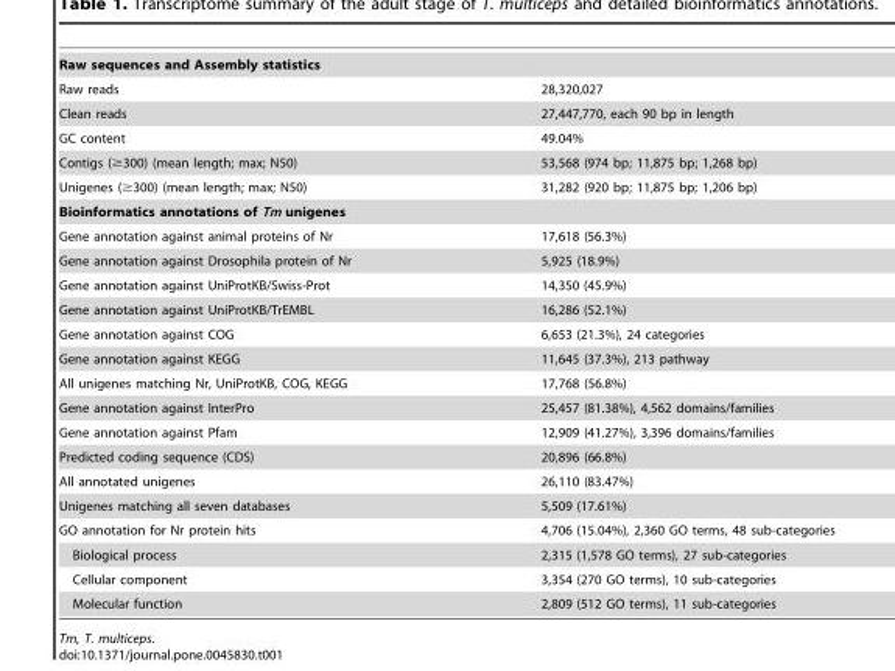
<table><tbody><tr><td colspan="2">Raw sequences and Assembly statistics</td></tr><tr><td>Raw reads</td><td>28,320,027</td></tr><tr><td>Clean reads</td><td>27,447,770, each 90 bp in length</td></tr><tr><td>GC content</td><td>49.04%</td></tr><tr><td>Contigs (≥300) (mean length; max; N50)</td><td>53,568 (974 bp; 11,875 bp; 1,268 bp)</td></tr><tr><td>Unigenes (≥300) (mean length; max; N50)</td><td>31,282 (920 bp; 11,875 bp; 1,206 bp)</td></tr><tr><td colspan="2">Bioinformatics annotations of Tm unigenes</td></tr><tr><td>Gene annotation against animal proteins of Nr</td><td>17,618 (56.3%)</td></tr><tr><td>Gene annotation against Drosophila protein of Nr</td><td>5,925 (18.9%)</td></tr><tr><td>Gene annotation against UniProtKB/Swiss-Prot</td><td>14,350 (45.9%)</td></tr><tr><td>Gene annotation against UniProtKB/TrEMBL</td><td>16,286 (52.1%)</td></tr><tr><td>Gene annotation against COG</td><td>6,653 (21.3%), 24 categories</td></tr><tr><td>Gene annotation against KEGG</td><td>11,645 (37.3%), 213 pathway</td></tr><tr><td>All unigenes matching Nr, UniProtKB, COG, KEGG</td><td>17,768 (56.8%)</td></tr><tr><td>Gene annotation against InterPro</td><td>25,457 (81.38%), 4,562 domains/families</td></tr><tr><td>Gene annotation against Pfam</td><td>12,909 (41.27%), 3,396 domains/families</td></tr><tr><td>Predicted coding sequence (CDS)</td><td>20,896 (66.8%)</td></tr><tr><td>All annotated unigenes</td><td>26,110 (83.47%)</td></tr><tr><td>Unigenes matching all seven databases</td><td>5,509 (17.61%)</td></tr><tr><td>GO annotation for Nr protein hits</td><td>4,706 (15.04%), 2,360 GO terms, 48 sub-categories</td></tr><tr><td>Biological process</td><td>2,315 (1,578 GO terms), 27 sub-categories</td></tr><tr><td>Cellular component</td><td>3,354 (270 GO terms), 10 sub-categories</td></tr><tr><td>Molecular function</td><td>2,809 (512 GO terms), 11 sub-categories</td></tr></tbody></table>